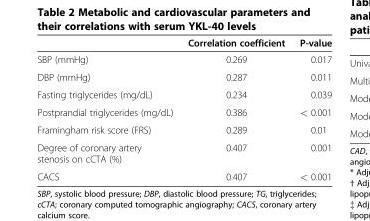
<table><thead><tr><td></td><td>Correlation coefficient</td><td>P-value</td></tr></thead><tbody><tr><td>SBP (mmHg)</td><td>0.269</td><td>0.017</td></tr><tr><td>DBP (mmHg)</td><td>0.287</td><td>0.011</td></tr><tr><td>Fasting triglycerides (mg/dL)</td><td>0.234</td><td>0.039</td></tr><tr><td>Postprandial triglycerides (mg/dL)</td><td>0.386</td><td>&lt; 0.001</td></tr><tr><td>Framingham risk score (FRS)</td><td>0.289</td><td>0.01</td></tr><tr><td>Degree of coronary artery stenosis on cCTA (%)</td><td>0.407</td><td>0.001</td></tr><tr><td>CACS</td><td>0.407</td><td>&lt; 0.001</td></tr></tbody></table>